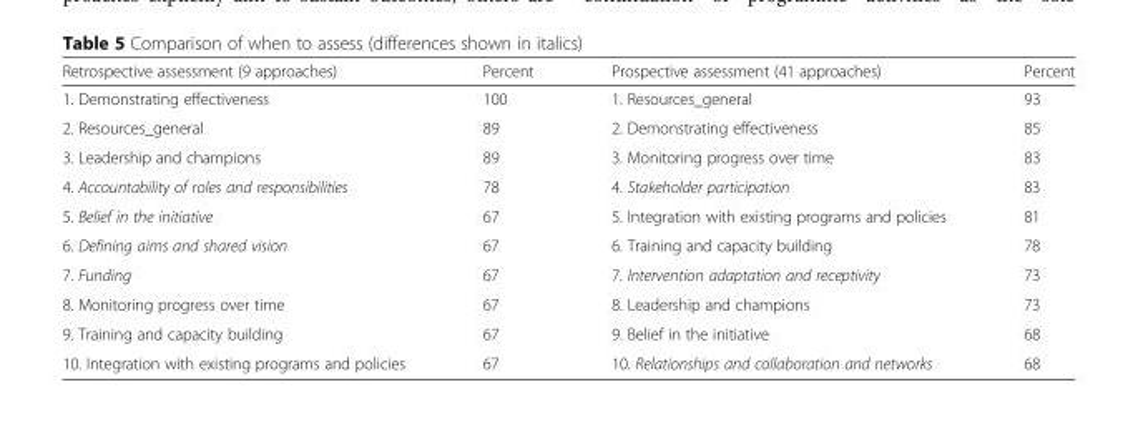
<table><thead><tr><td>Retrospective assessment (9 approaches)</td><td>Percent</td><td>Prospective assessment (41 approaches)</td><td>Percent</td></tr></thead><tbody><tr><td>1. Demonstrating effectiveness</td><td>100</td><td>1. Resources_general</td><td>93</td></tr><tr><td>2. Resources_general</td><td>89</td><td>2. Demonstrating effectiveness</td><td>85</td></tr><tr><td>3. Leadership and champions</td><td>89</td><td>3. Monitoring progress over time</td><td>83</td></tr><tr><td>4. Accountability of roles and responsibilities</td><td>78</td><td>4. Stakeholder participation</td><td>83</td></tr><tr><td>5. Belief in the initiative</td><td>67</td><td>5. Integration with existing programs and policies</td><td>81</td></tr><tr><td>6. Defining aims and shared vision</td><td>67</td><td>6. Training and capacity building</td><td>78</td></tr><tr><td>7. Funding</td><td>67</td><td>7. Intervention adaptation and receptivity</td><td>73</td></tr><tr><td>8. Monitoring progress over time</td><td>67</td><td>8. Leadership and champions</td><td>73</td></tr><tr><td>9. Training and capacity building</td><td>67</td><td>9. Belief in the initiative</td><td>68</td></tr><tr><td>10. Integration with existing programs and policies</td><td>67</td><td>10. Relationships and collaboration and networks</td><td>68</td></tr></tbody></table>